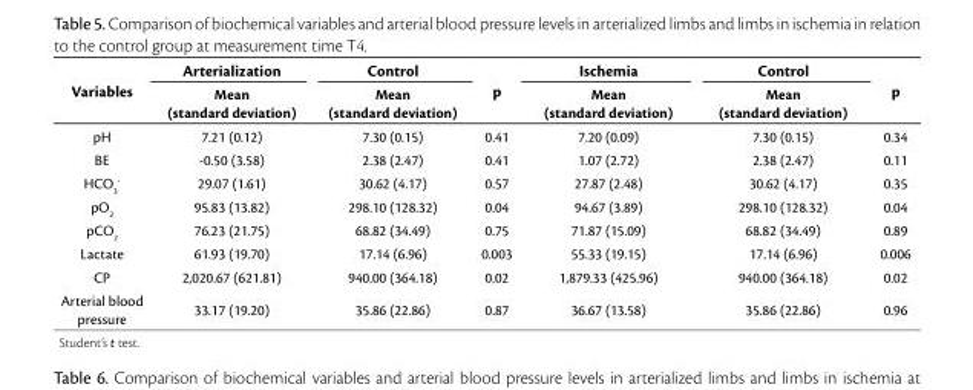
<table><thead><tr><td rowspan="2">Variables</td><td rowspan="2">Arterialization Mean (standard deviation)</td><td rowspan="2">Control Mean (standard deviation)</td><td rowspan="2">p</td><td rowspan="2">Ischemia Mean (standard deviation)</td><td rowspan="2">Control Mean (standard deviation)</td><td rowspan="2">p</td></tr><tr></tr></thead><tbody><tr><td>pH</td><td>7.21 (0.12)</td><td>7.30 (0.15)</td><td>0.41</td><td>7.20 (0.09)</td><td>7.30 (0.15)</td><td>0.34</td></tr><tr><td>BE</td><td>-0.50 (3.58)</td><td>2.38 (2.47)</td><td>0.41</td><td>1.07 (2.72)</td><td>2.38 (2.47)</td><td>0.11</td></tr><tr><td>HCO3 -</td><td>29.07 (1.61)</td><td>30.62 (4.17)</td><td>0.57</td><td>27.87 (2.48)</td><td>30.62 (4.17)</td><td>0.35</td></tr><tr><td>pO2</td><td>95.83 (13.82)</td><td>298.10 (128.32)</td><td>0.04</td><td>94.67 (3.89)</td><td>298.10 (128.32)</td><td>0.04</td></tr><tr><td>pCO2</td><td>76.23 (21.75)</td><td>68.82 (34.49)</td><td>0.75</td><td>71.87 (15.09)</td><td>68.82 (34.49)</td><td>0.89</td></tr><tr><td>Lactate</td><td>61.93 (19.70)</td><td>17.14 (6.96)</td><td>0.003</td><td>55.33 (19.15)</td><td>17.14 (6.96)</td><td>0.006</td></tr><tr><td>CP</td><td>2,020.67 (621.81)</td><td>940.00 (364.18)</td><td>0.02</td><td>1,879.33 (425.96)</td><td>940.00 (364.18)</td><td>0.02</td></tr><tr><td>Arterial blood pressure</td><td>33.17 (19.20)</td><td>35.86 (22.86)</td><td>0.87</td><td>36.67 (13.58)</td><td>35.86 (22.86)</td><td>0.96</td></tr></tbody></table>